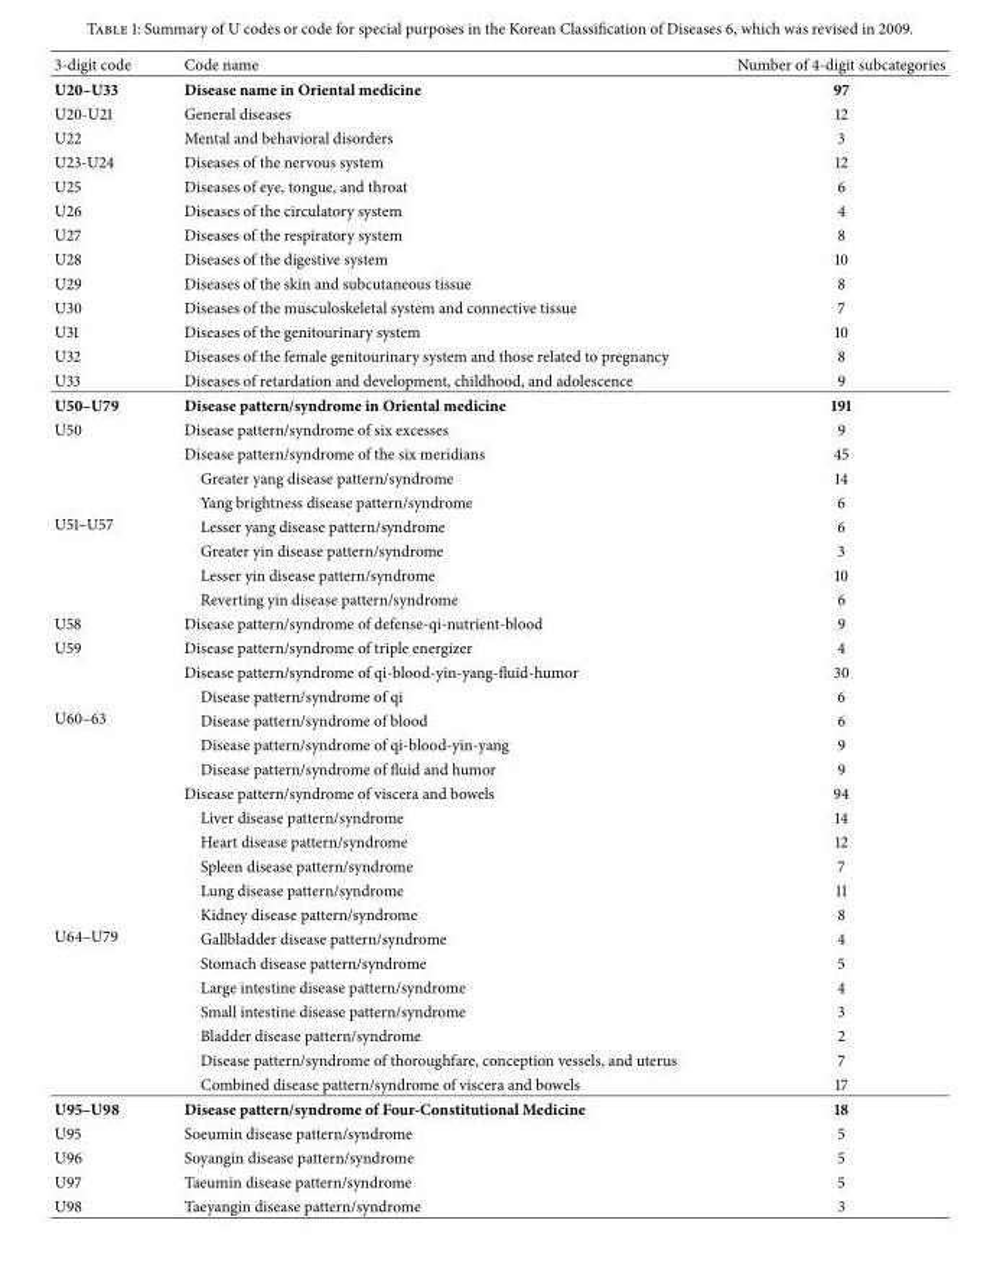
<table><thead><tr><td>3-digit code</td><td>Code name</td><td>Number of 4-digit subcategories</td></tr></thead><tbody><tr><td>U20–U33</td><td>Disease name in Oriental medicine</td><td>97</td></tr><tr><td>U20-U21</td><td>General diseases</td><td>12</td></tr><tr><td>U22</td><td>Mental and behavioral disorders</td><td>3</td></tr><tr><td>U23-U24</td><td>Diseases of the nervous system</td><td>12</td></tr><tr><td>U25</td><td>Diseases of eye, tongue, and throat</td><td>6</td></tr><tr><td>U26</td><td>Diseases of the circulatory system</td><td>4</td></tr><tr><td>U27</td><td>Diseases of the respiratory system</td><td>8</td></tr><tr><td>U28</td><td>Diseases of the digestive system</td><td>10</td></tr><tr><td>U29</td><td>Diseases of the skin and subcutaneous tissue</td><td>8</td></tr><tr><td>U30</td><td>Diseases of the musculoskeletal system and connective tissue</td><td>7</td></tr><tr><td>U31</td><td>Diseases of the genitourinary system</td><td>10</td></tr><tr><td>U32</td><td>Diseases of the female genitourinary system and those related to pregnancy</td><td>8</td></tr><tr><td>U33</td><td>Diseases of retardation and development, childhood, and adolescence</td><td>9</td></tr><tr><td>U50–U79</td><td>Disease pattern/syndrome in Oriental medicine</td><td>191</td></tr><tr><td>U50</td><td>Disease pattern/syndrome of six excesses</td><td>9</td></tr><tr><td rowspan="7">U51–U57</td><td>Disease pattern/syndrome of the six meridians</td><td>45</td></tr><tr><td>Greater yang disease pattern/syndrome</td><td>14</td></tr><tr><td>Yang brightness disease pattern/syndrome</td><td>6</td></tr><tr><td>Lesser yang disease pattern/syndrome</td><td>6</td></tr><tr><td>Greater yin disease pattern/syndrome</td><td>3</td></tr><tr><td>Lesser yin disease pattern/syndrome</td><td>10</td></tr><tr><td>Reverting yin disease pattern/syndrome</td><td>6</td></tr><tr><td>U58</td><td>Disease pattern/syndrome of defense-qi-nutrient-blood</td><td>9</td></tr><tr><td>U59</td><td>Disease pattern/syndrome of triple energizer</td><td>4</td></tr><tr><td rowspan="5">U60–63</td><td>Disease pattern/syndrome of qi-blood-yin-yang-fluid-humor</td><td>30</td></tr><tr><td>Disease pattern/syndrome of qi</td><td>6</td></tr><tr><td>Disease pattern/syndrome of blood</td><td>6</td></tr><tr><td>Disease pattern/syndrome of qi-blood-yin-yang</td><td>9</td></tr><tr><td>Disease pattern/syndrome of fluid and humor</td><td>9</td></tr><tr><td rowspan="13">U64–U79</td><td>Disease pattern/syndrome of viscera and bowels</td><td>94</td></tr><tr><td>Liver disease pattern/syndrome</td><td>14</td></tr><tr><td>Heart disease pattern/syndrome</td><td>12</td></tr><tr><td>Spleen disease pattern/syndrome</td><td>7</td></tr><tr><td>Lung disease pattern/syndrome</td><td>11</td></tr><tr><td>Kidney disease pattern/syndrome</td><td>8</td></tr><tr><td>Gallbladder disease pattern/syndrome</td><td>4</td></tr><tr><td>Stomach disease pattern/syndrome</td><td>5</td></tr><tr><td>Large intestine disease pattern/syndrome</td><td>4</td></tr><tr><td>Small intestine disease pattern/syndrome</td><td>3</td></tr><tr><td>Bladder disease pattern/syndrome</td><td>2</td></tr><tr><td>Disease pattern/syndrome of thoroughfare, conception vessels, and uterus</td><td>7</td></tr><tr><td>Combined disease pattern/syndrome of viscera and bowels</td><td>17</td></tr><tr><td>U95–U98</td><td>Disease pattern/syndrome of Four-Constitutional Medicine</td><td>18</td></tr><tr><td>U95</td><td>Soeumin disease pattern/syndrome</td><td>5</td></tr><tr><td>U96</td><td>Soyangin disease pattern/syndrome</td><td>5</td></tr><tr><td>U97</td><td>Taeumin disease pattern/syndrome</td><td>5</td></tr><tr><td>U98</td><td>Taeyangin disease pattern/syndrome</td><td>3</td></tr></tbody></table>